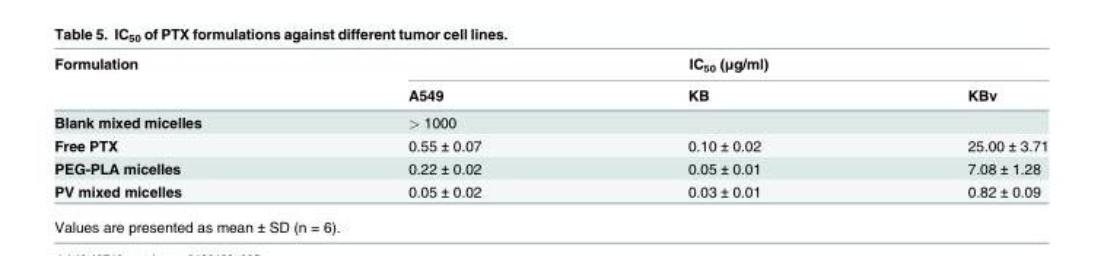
<table><thead><tr><td rowspan="2">Formulation</td><td colspan="3">IC<sub>50</sub> (μg/ml)</td></tr><tr><td>A549</td><td>KB</td><td>KBv</td></tr></thead><tbody><tr><td>Blank mixed micelles</td><td>&gt; 1000</td><td></td><td></td></tr><tr><td>Free PTX</td><td>0.55 ± 0.07</td><td>0.10 ± 0.02</td><td>25.00 ± 3.71</td></tr><tr><td>PEG-PLA micelles</td><td>0.22 ± 0.02</td><td>0.05 ± 0.01</td><td>7.08 ± 1.28</td></tr><tr><td>PV mixed micelles</td><td>0.05 ± 0.02</td><td>0.03 ± 0.01</td><td>0.82 ± 0.09</td></tr></tbody></table>